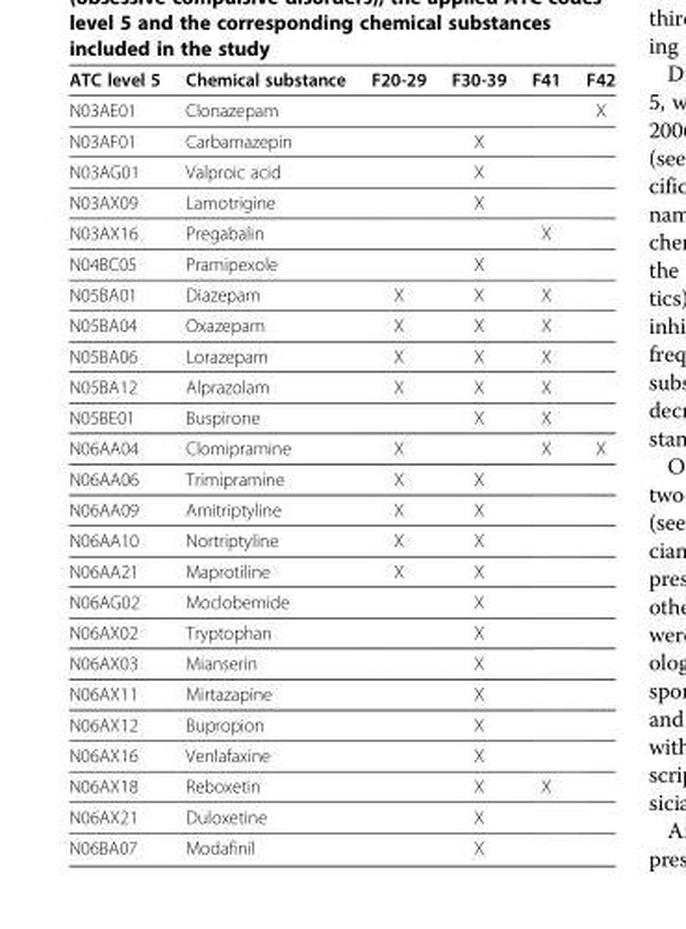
<table><thead><tr><td>ATC level 5</td><td>Chemical substance</td><td>F20-29</td><td>F30-39</td><td>F41</td><td>F42</td></tr></thead><tbody><tr><td>N03AE01</td><td>Clonazepam</td><td></td><td></td><td></td><td>X</td></tr><tr><td>N03AF01</td><td>Carbamazepin</td><td></td><td>X</td><td></td><td></td></tr><tr><td>N03AG01</td><td>Valproic acid</td><td></td><td>X</td><td></td><td></td></tr><tr><td>N03AX09</td><td>Lamotrigine</td><td></td><td>X</td><td></td><td></td></tr><tr><td>N03AX16</td><td>Pregabalin</td><td></td><td></td><td>X</td><td></td></tr><tr><td>N04BC05</td><td>Pramipexole</td><td></td><td>X</td><td></td><td></td></tr><tr><td>N05BA01</td><td>Diazepam</td><td>X</td><td>X</td><td>X</td><td></td></tr><tr><td>N05BA04</td><td>Oxazepam</td><td>X</td><td>X</td><td>X</td><td></td></tr><tr><td>N05BA06</td><td>Lorazepam</td><td>X</td><td>X</td><td>X</td><td></td></tr><tr><td>N05BA12</td><td>Alprazolam</td><td>X</td><td>X</td><td>X</td><td></td></tr><tr><td>N05BE01</td><td>Buspirone</td><td></td><td>X</td><td>X</td><td></td></tr><tr><td>N06AA04</td><td>Clomipramine</td><td>X</td><td></td><td>X</td><td>X</td></tr><tr><td>N06AA06</td><td>Trimipramine</td><td>X</td><td>X</td><td></td><td></td></tr><tr><td>N06AA09</td><td>Amitriptyline</td><td>X</td><td>X</td><td></td><td></td></tr><tr><td>N06AA10</td><td>Nortriptyline</td><td>X</td><td>X</td><td></td><td></td></tr><tr><td>N06AA21</td><td>Maprotiline</td><td>X</td><td>X</td><td></td><td></td></tr><tr><td>N06AG02</td><td>Moclobemide</td><td></td><td>X</td><td></td><td></td></tr><tr><td>N06AX02</td><td>Tryptophan</td><td></td><td>X</td><td></td><td></td></tr><tr><td>N06AX03</td><td>Mianserin</td><td></td><td>X</td><td></td><td></td></tr><tr><td>N06AX11</td><td>Mirtazapine</td><td></td><td>X</td><td></td><td></td></tr><tr><td>N06AX12</td><td>Bupropion</td><td></td><td>X</td><td></td><td></td></tr><tr><td>N06AX16</td><td>Venlafaxine</td><td></td><td>X</td><td></td><td></td></tr><tr><td>N06AX18</td><td>Reboxetin</td><td></td><td>X</td><td>X</td><td></td></tr><tr><td>N06AX21</td><td>Duloxetine</td><td></td><td>X</td><td></td><td></td></tr><tr><td>N06BA07</td><td>Modafinil</td><td></td><td>X</td><td></td><td></td></tr></tbody></table>